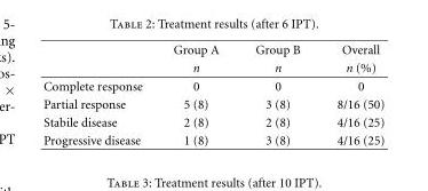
<table><thead><tr><td rowspan="2"></td><td rowspan="2">Group A n</td><td rowspan="2">Group B n</td><td rowspan="2">Overall n (%)</td></tr><tr></tr></thead><tbody><tr><td>Complete response</td><td>0</td><td>0</td><td>0</td></tr><tr><td>Partial response</td><td>5 (8)</td><td>3 (8)</td><td>8/16 (50)</td></tr><tr><td>Stabile disease</td><td>2 (8)</td><td>2 (8)</td><td>4/16 (25)</td></tr><tr><td>Progressive disease</td><td>1 (8)</td><td>3 (8)</td><td>4/16 (25)</td></tr></tbody></table>